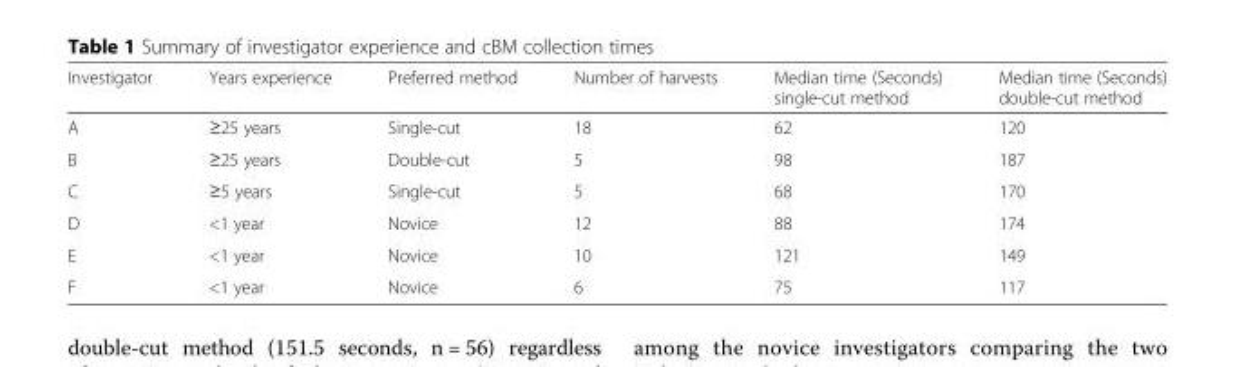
<table><thead><tr><td>Investigator</td><td>Years experience</td><td>Preferred method</td><td>Number of harvests</td><td>Median time (Seconds) single-cut method</td><td>Median time (Seconds) double-cut method</td></tr></thead><tbody><tr><td>A</td><td>≥25 years</td><td>Single-cut</td><td>18</td><td>62</td><td>120</td></tr><tr><td>B</td><td>≥25 years</td><td>Double-cut</td><td>5</td><td>98</td><td>187</td></tr><tr><td>C</td><td>≥5 years</td><td>Single-cut</td><td>5</td><td>68</td><td>170</td></tr><tr><td>D</td><td>&lt;1 year</td><td>Novice</td><td>12</td><td>88</td><td>174</td></tr><tr><td>E</td><td>&lt;1 year</td><td>Novice</td><td>10</td><td>121</td><td>149</td></tr><tr><td>F</td><td>&lt;1 year</td><td>Novice</td><td>6</td><td>75</td><td>117</td></tr></tbody></table>